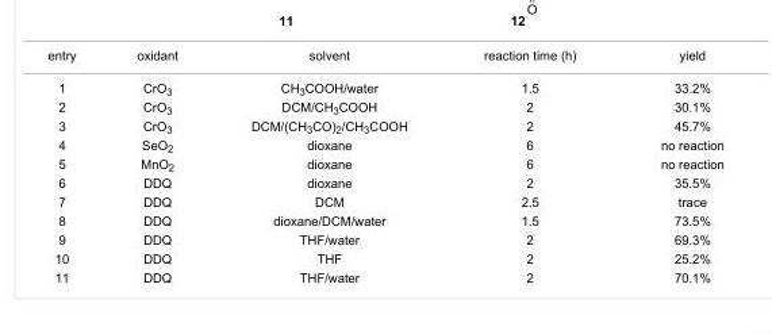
<table><tbody><tr><td>entry</td><td>oxidant</td><td>solvent</td><td>reaction time (h)</td><td>yield</td></tr><tr><td>1</td><td>CrO<sub>3</sub></td><td>CH<sub>3</sub>COOH/water</td><td>1.5</td><td>33.2%</td></tr><tr><td>2</td><td>CrO<sub>3</sub></td><td>DCM/CH<sub>3</sub>COOH</td><td>2</td><td>30.1%</td></tr><tr><td>3</td><td>CrO<sub>3</sub></td><td>DCM/(CH<sub>3</sub>CO)<sub>2</sub>/CH<sub>3</sub>COOH</td><td>2</td><td>45.7%</td></tr><tr><td>4</td><td>SeO<sub>2</sub></td><td>dioxane</td><td>6</td><td>no reaction</td></tr><tr><td>5</td><td>MnO<sub>2</sub></td><td>dioxane</td><td>6</td><td>no reaction</td></tr><tr><td>6</td><td>DDQ</td><td>dioxane</td><td>2</td><td>35.5%</td></tr><tr><td>7</td><td>DDQ</td><td>DCM</td><td>2.5</td><td>trace</td></tr><tr><td>8</td><td>DDQ</td><td>dioxane/DCM/water</td><td>1.5</td><td>73.5%</td></tr><tr><td>9</td><td>DDQ</td><td>THF/water</td><td>2</td><td>69.3%</td></tr><tr><td>10</td><td>DDQ</td><td>THF</td><td>2</td><td>25.2%</td></tr><tr><td>11</td><td>DDQ</td><td>THF/water</td><td>2</td><td>70.1%</td></tr></tbody></table>